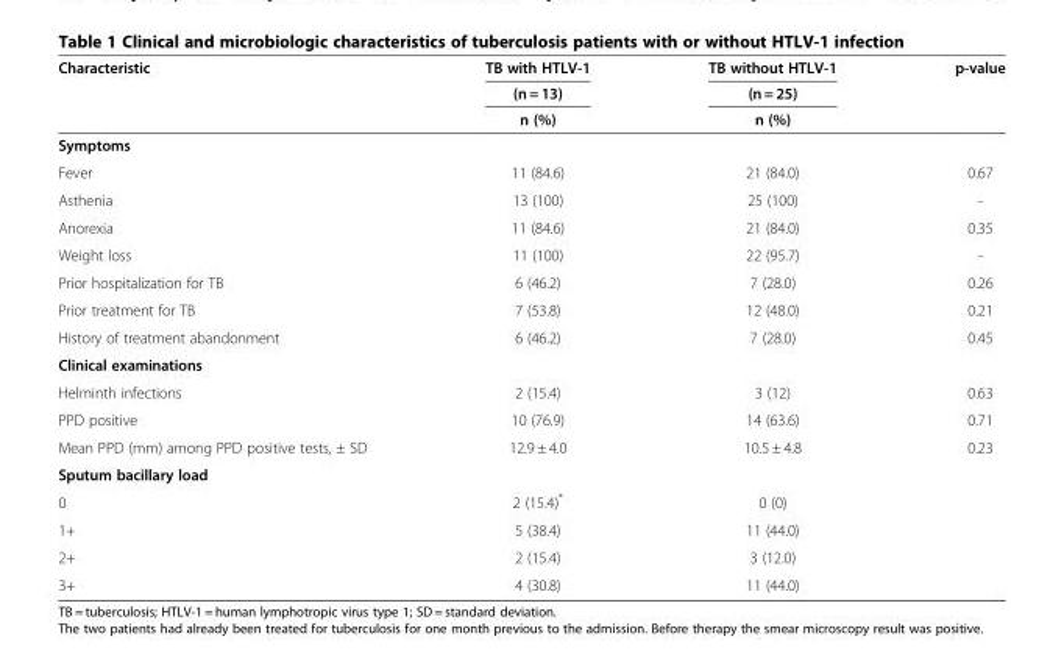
<table><thead><tr><td rowspan="3">Characteristic</td><td rowspan="3">TB with HTLV-1 (n = 13) n (%)</td><td rowspan="3">TB without HTLV-1 (n = 25) n (%)</td><td rowspan="3">p-value</td></tr><tr></tr><tr></tr></thead><tbody><tr><td colspan="4">Symptoms</td></tr><tr><td>Fever</td><td>11 (84.6)</td><td>21 (84.0)</td><td>0.67</td></tr><tr><td>Asthenia</td><td>13 (100)</td><td>25 (100)</td><td>-</td></tr><tr><td>Anorexia</td><td>11 (84.6)</td><td>21 (84.0)</td><td>0.35</td></tr><tr><td>Weight loss</td><td>11 (100)</td><td>22 (95.7)</td><td>-</td></tr><tr><td>Prior hospitalization for TB</td><td>6 (46.2)</td><td>7 (28.0)</td><td>0.26</td></tr><tr><td>Prior treatment for TB</td><td>7 (53.8)</td><td>12 (48.0)</td><td>0.21</td></tr><tr><td>History of treatment abandonment</td><td>6 (46.2)</td><td>7 (28.0)</td><td>0.45</td></tr><tr><td colspan="4">Clinical examinations</td></tr><tr><td>Helminth infections</td><td>2 (15.4)</td><td>3 (12)</td><td>0.63</td></tr><tr><td>PPD positive</td><td>10 (76.9)</td><td>14 (63.6)</td><td>0.71</td></tr><tr><td>Mean PPD (mm) among PPD positive tests, ± SD</td><td>12.9 ± 4.0</td><td>10.5 ± 4.8</td><td>0.23</td></tr><tr><td colspan="4">Sputum bacillary load</td></tr><tr><td>0</td><td>2 (15.4)*</td><td>0 (0)</td><td></td></tr><tr><td>1+</td><td>5 (38.4)</td><td>11 (44.0)</td><td></td></tr><tr><td>2+</td><td>2 (15.4)</td><td>3 (12.0)</td><td></td></tr><tr><td>3+</td><td>4 (30.8)</td><td>11 (44.0)</td><td></td></tr></tbody></table>